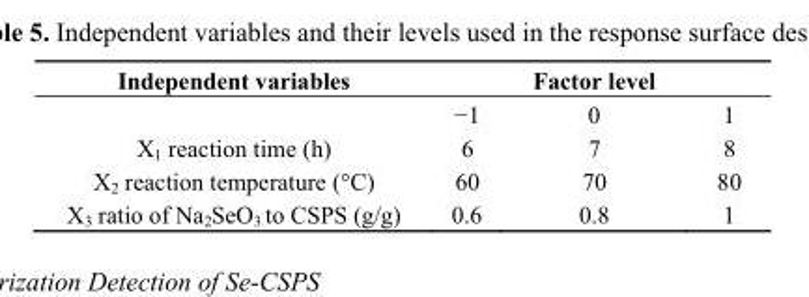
<table><thead><tr><td rowspan="2">Independent variables</td><td colspan="3">Factor level</td></tr><tr><td>−1</td><td>0</td><td>1</td></tr></thead><tbody><tr><td>X<sub>1</sub> reaction time (h)</td><td>6</td><td>7</td><td>8</td></tr><tr><td>X<sub>2</sub> reaction temperature (°C)</td><td>60</td><td>70</td><td>80</td></tr><tr><td>X<sub>3</sub> ratio of Na<sub>2</sub>SeO<sub>3</sub> to CSPS (g/g)</td><td>0.6</td><td>0.8</td><td>1</td></tr></tbody></table>